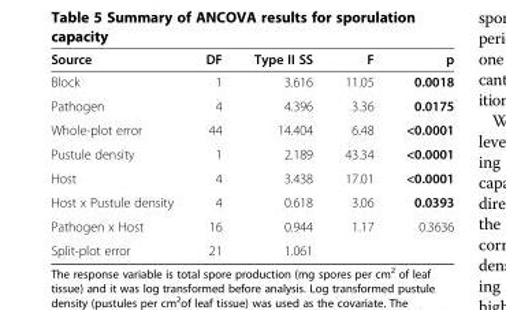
<table><thead><tr><td>Source</td><td>DF</td><td>Type II SS</td><td>F</td><td>p</td></tr></thead><tbody><tr><td>Block</td><td>1</td><td>3.616</td><td>11.05</td><td>0.0018</td></tr><tr><td>Pathogen</td><td>4</td><td>4.396</td><td>3.36</td><td>0.0175</td></tr><tr><td>Whole-plot error</td><td>44</td><td>14.404</td><td>6.48</td><td>&lt;0.0001</td></tr><tr><td>Pustule density</td><td>1</td><td>2.189</td><td>43.34</td><td>&lt;0.0001</td></tr><tr><td>Host</td><td>4</td><td>3.438</td><td>17.01</td><td>&lt;0.0001</td></tr><tr><td>Host x Pustule density</td><td>4</td><td>0.618</td><td>3.06</td><td>0.0393</td></tr><tr><td>Pathogen x Host</td><td>16</td><td>0.944</td><td>1.17</td><td>0.3636</td></tr><tr><td>Split-plot error</td><td>21</td><td>1.061</td><td></td><td></td></tr></tbody></table>